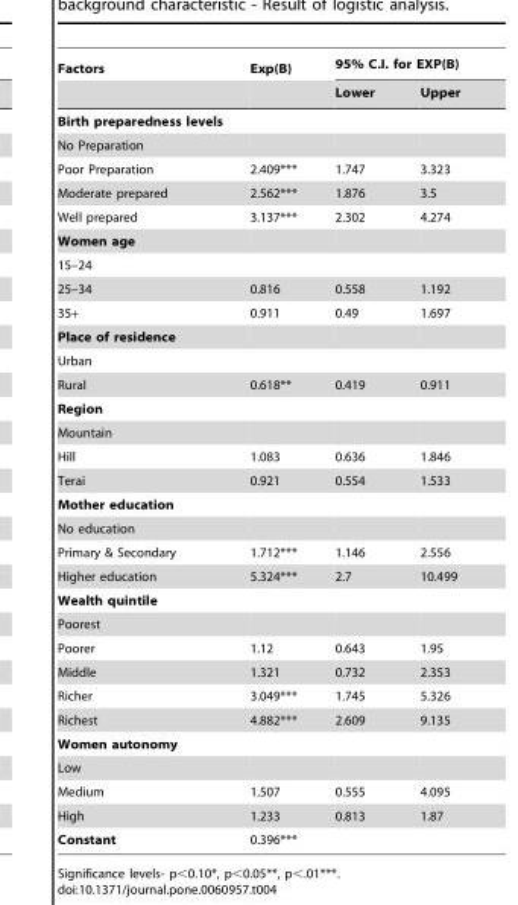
<table><thead><tr><td rowspan="2">Factors</td><td rowspan="2">Exp(B)</td><td colspan="2">95% C.I. for EXP(B)</td></tr><tr><td>Lower</td><td>Upper</td></tr></thead><tbody><tr><td colspan="4">Birth preparedness levels</td></tr><tr><td colspan="4">No Preparation</td></tr><tr><td>Poor Preparation</td><td>2.409***</td><td>1.747</td><td>3.323</td></tr><tr><td>Moderate prepared</td><td>2.562***</td><td>1.876</td><td>3.5</td></tr><tr><td>Well prepared</td><td>3.137***</td><td>2.302</td><td>4.274</td></tr><tr><td colspan="4">Women age</td></tr><tr><td colspan="4">15–24</td></tr><tr><td>25–34</td><td>0.816</td><td>0.558</td><td>1.192</td></tr><tr><td>35+</td><td>0.911</td><td>0.49</td><td>1.697</td></tr><tr><td colspan="4">Place of residence</td></tr><tr><td colspan="4">Urban</td></tr><tr><td>Rural</td><td>0.618**</td><td>0.419</td><td>0.911</td></tr><tr><td colspan="4">Region</td></tr><tr><td colspan="4">Mountain</td></tr><tr><td>Hill</td><td>1.083</td><td>0.636</td><td>1.846</td></tr><tr><td>Terai</td><td>0.921</td><td>0.554</td><td>1.533</td></tr><tr><td colspan="4">Mother education</td></tr><tr><td colspan="4">No education</td></tr><tr><td>Primary &amp; Secondary</td><td>1.712***</td><td>1.146</td><td>2.556</td></tr><tr><td>Higher education</td><td>5.324***</td><td>2.7</td><td>10.499</td></tr><tr><td colspan="4">Wealth quintile</td></tr><tr><td colspan="4">Poorest</td></tr><tr><td>Poorer</td><td>1.12</td><td>0.643</td><td>1.95</td></tr><tr><td>Middle</td><td>1.321</td><td>0.732</td><td>2.353</td></tr><tr><td>Richer</td><td>3.049***</td><td>1.745</td><td>5.326</td></tr><tr><td>Richest</td><td>4.882***</td><td>2.609</td><td>9.135</td></tr><tr><td colspan="4">Women autonomy</td></tr><tr><td colspan="4">Low</td></tr><tr><td>Medium</td><td>1.507</td><td>0.555</td><td>4.095</td></tr><tr><td>High</td><td>1.233</td><td>0.813</td><td>1.87</td></tr><tr><td>Constant</td><td>0.396***</td><td></td><td></td></tr></tbody></table>